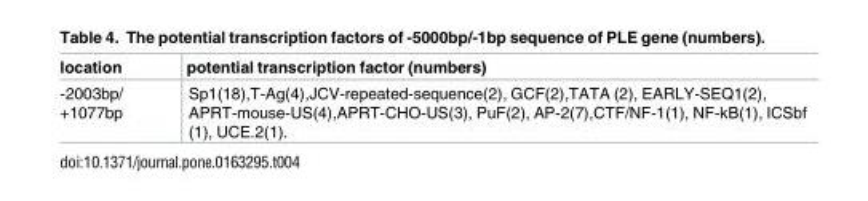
<table><thead><tr><td>location</td><td>potential transcription factor (numbers)</td></tr></thead><tbody><tr><td>-2003bp/ +1077bp</td><td>Sp1(18),T-Ag(4),JCV-repeated-sequence(2), GCF(2),TATA (2), EARLY-SEQ1(2), APRT-mouse-US(4),APRT-CHO-US(3), PuF(2), AP-2(7),CTF/NF-1(1), NF-kB(1), ICSbf (1), UCE.2(1).</td></tr></tbody></table>